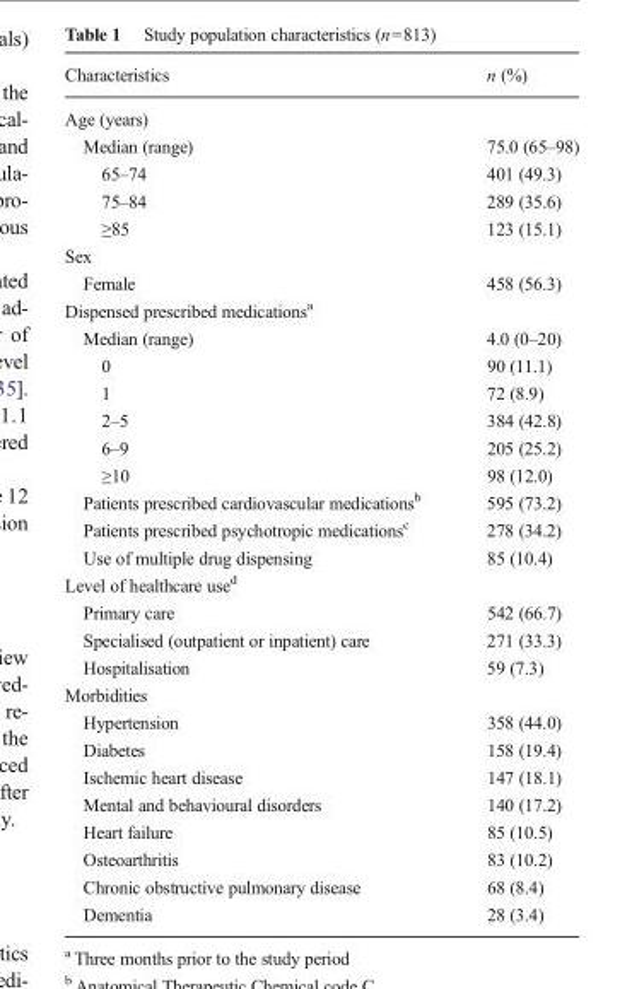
<table><thead><tr><td>Characteristics</td><td>n (%)</td></tr></thead><tbody><tr><td colspan="2">Age (years)</td></tr><tr><td>Median (range)</td><td>75.0 (65–98)</td></tr><tr><td>65–74</td><td>401 (49.3)</td></tr><tr><td>75–84</td><td>289 (35.6)</td></tr><tr><td>≥85</td><td>123 (15.1)</td></tr><tr><td colspan="2">Sex</td></tr><tr><td>Female</td><td>458 (56.3)</td></tr><tr><td colspan="2">Dispensed prescribed medications<sup>a</sup></td></tr><tr><td>Median (range)</td><td>4.0 (0–20)</td></tr><tr><td>0</td><td>90 (11.1)</td></tr><tr><td>1</td><td>72 (8.9)</td></tr><tr><td>2–5</td><td>384 (42.8)</td></tr><tr><td>6–9</td><td>205 (25.2)</td></tr><tr><td>≥10</td><td>98 (12.0)</td></tr><tr><td>Patients prescribed cardiovascular medications<sup>b</sup></td><td>595 (73.2)</td></tr><tr><td>Patients prescribed psychotropic medications<sup>c</sup></td><td>278 (34.2)</td></tr><tr><td>Use of multiple drug dispensing</td><td>85 (10.4)</td></tr><tr><td colspan="2">Level of healthcare use<sup>d</sup></td></tr><tr><td>Primary care</td><td>542 (66.7)</td></tr><tr><td>Specialised (outpatient or inpatient) care</td><td>271 (33.3)</td></tr><tr><td>Hospitalisation</td><td>59 (7.3)</td></tr><tr><td colspan="2">Morbidities</td></tr><tr><td>Hypertension</td><td>358 (44.0)</td></tr><tr><td>Diabetes</td><td>158 (19.4)</td></tr><tr><td>Ischemic heart disease</td><td>147 (18.1)</td></tr><tr><td>Mental and behavioural disorders</td><td>140 (17.2)</td></tr><tr><td>Heart failure</td><td>85 (10.5)</td></tr><tr><td>Osteoarthritis</td><td>83 (10.2)</td></tr><tr><td>Chronic obstructive pulmonary disease</td><td>68 (8.4)</td></tr><tr><td>Dementia</td><td>28 (3.4)</td></tr></tbody></table>